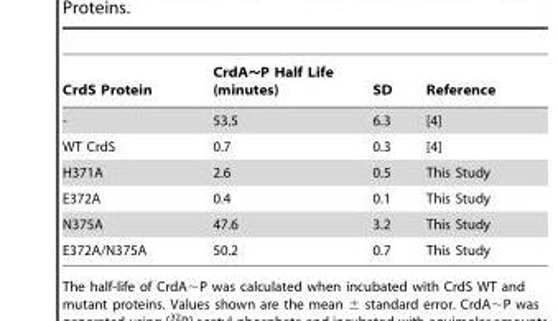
<table><thead><tr><td>CrdS Protein</td><td>CrdA∼P Half Life (minutes)</td><td>SD</td><td>Reference</td></tr></thead><tbody><tr><td>-</td><td>53.5</td><td>6.3</td><td>[4]</td></tr><tr><td>WT CrdS</td><td>0.7</td><td>0.3</td><td>[4]</td></tr><tr><td>H371A</td><td>2.6</td><td>0.5</td><td>This Study</td></tr><tr><td>E372A</td><td>0.4</td><td>0.1</td><td>This Study</td></tr><tr><td>N375A</td><td>47.6</td><td>3.2</td><td>This Study</td></tr><tr><td>E372A/N375A</td><td>50.2</td><td>0.7</td><td>This Study</td></tr></tbody></table>